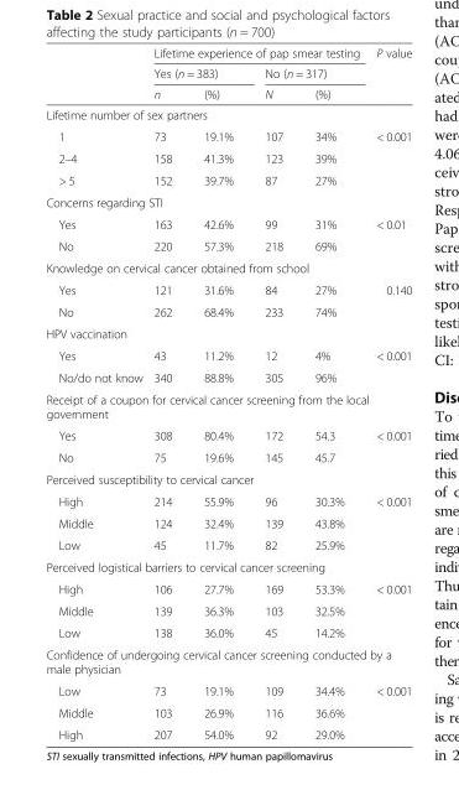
<table><thead><tr><td rowspan="3"></td><td colspan="4">Lifetime experience of pap smear testing</td><td rowspan="3">P value</td></tr><tr><td colspan="2">Yes (n = 383)</td><td colspan="2">No (n = 317)</td></tr><tr><td>n</td><td>(%)</td><td>N</td><td>(%)</td></tr></thead><tbody><tr><td colspan="6">Lifetime number of sex partners</td></tr><tr><td>1</td><td>73</td><td>19.1%</td><td>107</td><td>34%</td><td>&lt; 0.001</td></tr><tr><td>2–4</td><td>158</td><td>41.3%</td><td>123</td><td>39%</td><td></td></tr><tr><td>&gt; 5</td><td>152</td><td>39.7%</td><td>87</td><td>27%</td><td></td></tr><tr><td colspan="6">Concerns regarding STI</td></tr><tr><td>Yes</td><td>163</td><td>42.6%</td><td>99</td><td>31%</td><td>&lt; 0.01</td></tr><tr><td>No</td><td>220</td><td>57.3%</td><td>218</td><td>69%</td><td></td></tr><tr><td colspan="6">Knowledge on cervical cancer obtained from school</td></tr><tr><td>Yes</td><td>121</td><td>31.6%</td><td>84</td><td>27%</td><td>0.140</td></tr><tr><td>No</td><td>262</td><td>68.4%</td><td>233</td><td>74%</td><td></td></tr><tr><td colspan="6">HPV vaccination</td></tr><tr><td>Yes</td><td>43</td><td>11.2%</td><td>12</td><td>4%</td><td>&lt; 0.001</td></tr><tr><td>No/do not know</td><td>340</td><td>88.8%</td><td>305</td><td>96%</td><td></td></tr><tr><td colspan="6">Receipt of a coupon for cervical cancer screening from the local government</td></tr><tr><td>Yes</td><td>308</td><td>80.4%</td><td>172</td><td>54.3</td><td>&lt; 0.001</td></tr><tr><td>No</td><td>75</td><td>19.6%</td><td>145</td><td>45.7</td><td></td></tr><tr><td colspan="6">Perceived susceptibility to cervical cancer</td></tr><tr><td>High</td><td>214</td><td>55.9%</td><td>96</td><td>30.3%</td><td>&lt; 0.001</td></tr><tr><td>Middle</td><td>124</td><td>32.4%</td><td>139</td><td>43.8%</td><td></td></tr><tr><td>Low</td><td>45</td><td>11.7%</td><td>82</td><td>25.9%</td><td></td></tr><tr><td colspan="6">Perceived logistical barriers to cervical cancer screening</td></tr><tr><td>High</td><td>106</td><td>27.7%</td><td>169</td><td>53.3%</td><td>&lt; 0.001</td></tr><tr><td>Middle</td><td>139</td><td>36.3%</td><td>103</td><td>32.5%</td><td></td></tr><tr><td>Low</td><td>138</td><td>36.0%</td><td>45</td><td>14.2%</td><td></td></tr><tr><td colspan="6">Confidence of undergoing cervical cancer screening conducted by a male physician</td></tr><tr><td>Low</td><td>73</td><td>19.1%</td><td>109</td><td>34.4%</td><td>&lt; 0.001</td></tr><tr><td>Middle</td><td>103</td><td>26.9%</td><td>116</td><td>36.6%</td><td></td></tr><tr><td>High</td><td>207</td><td>54.0%</td><td>92</td><td>29.0%</td><td></td></tr></tbody></table>